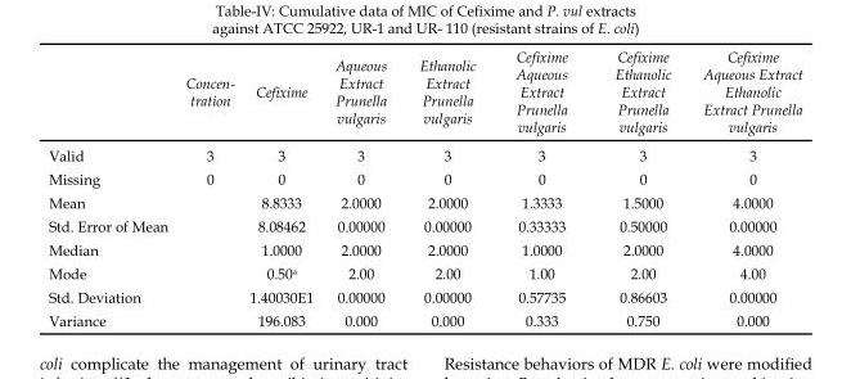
<table><thead><tr><td></td><td>Concen- tration</td><td>Cefixime</td><td>Aqueous Extract Prunella vulgaris</td><td>Ethanolic Extract Prunella vulgaris</td><td>Cefixime Aqueous Extract Prunella vulgaris</td><td>Cefixime Ethanolic Extract Prunella vulgaris</td><td>Cefixime Aqueous Extract Ethanolic Extract Prunella vulgaris</td></tr></thead><tbody><tr><td>Valid</td><td>3</td><td>3</td><td>3</td><td>3</td><td>3</td><td>3</td><td>3</td></tr><tr><td>Missing</td><td>0</td><td>0</td><td>0</td><td>0</td><td>0</td><td>0</td><td>0</td></tr><tr><td>Mean</td><td></td><td>8.8333</td><td>2.0000</td><td>2.0000</td><td>1.3333</td><td>1.5000</td><td>4.0000</td></tr><tr><td>Std. Error of Mean</td><td></td><td>8.08462</td><td>0.00000</td><td>0.00000</td><td>0.33333</td><td>0.50000</td><td>0.00000</td></tr><tr><td>Median</td><td></td><td>1.0000</td><td>2.0000</td><td>2.0000</td><td>1.0000</td><td>2.0000</td><td>4.0000</td></tr><tr><td>Mode</td><td></td><td>0.50<sup>a</sup></td><td>2.00</td><td>2.00</td><td>1.00</td><td>2.00</td><td>4.00</td></tr><tr><td>Std. Deviation</td><td></td><td>1.40030E1</td><td>0.00000</td><td>0.00000</td><td>0.57735</td><td>0.86603</td><td>0.00000</td></tr><tr><td>Variance</td><td></td><td>196.083</td><td>0.000</td><td>0.000</td><td>0.333</td><td>0.750</td><td>0.000</td></tr></tbody></table>